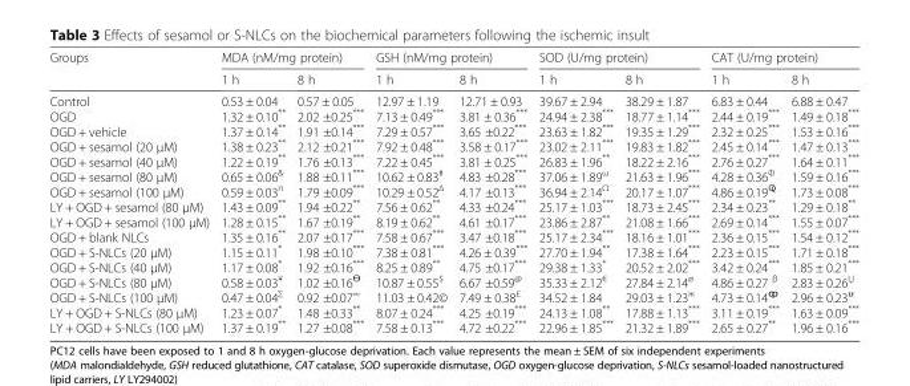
<table><thead><tr><td rowspan="2">Groups</td><td colspan="2">MDA (nM/mg protein)</td><td colspan="2">GSH (nM/mg protein)</td><td colspan="2">SOD (U/mg protein)</td><td colspan="2">CAT (U/mg protein)</td></tr><tr><td>1 h</td><td>8 h</td><td>1 h</td><td>8 h</td><td>1 h</td><td>8 h</td><td>1 h</td><td>8 h</td></tr></thead><tbody><tr><td>Control OGD OGD + vehicle OGD + sesamol (20 μM) OGD + sesamol (40 μM) OGD + sesamol (80 μM) OGD + sesamol (100 μM) LY + OGD + sesamol (80 μM) LY + OGD + sesamol (100 μM) OGD + blank NLCs OGD + S-NLCs (20 μM) OGD + S-NLCs (40 μM) OGD + S-NLCs (80 μM) OGD + S-NLCs (100 μM) LY + OGD + S-NLCs (80 μM) LY + OGD + S-NLCs (100 μM)</td><td>0.53 ± 0.04 1.32 ± 0.10** 1.37 ± 0.14** 1.38 ± 0.23** 1.22 ± 0.19** 0.65 ± 0.06<sup>&amp;</sup> 0.59 ± 0.03<sup>π</sup> 1.43 ± 0.09** 1.28 ± 0.15** 1.35 ± 0.16** 1.15 ± 0.11* 1.17 ± 0.08* 0.58 ± 0.03<sup>¥</sup> 0.47 ± 0.04<sup>∑</sup> 1.23 ± 0.07* 1.37 ± 0.19**</td><td>0.57 ± 0.05 2.02 ±0.25*** 1.91 ±0.14*** 2.12 ±0.21*** 1.76 ±0.13*** 1.88 ±0.11*** 1.79 ±0.09*** 1.94 ±0.22** 1.67 ±0.19** 2.07 ±0.17*** 1.98 ±0.10*** 1.92 ±0.16*** 1.02 ±0.16Ө 0.92 ±0.07∞ 1.48 ±0.33** 1.27 ±0.08***</td><td>12.97 ± 1.19 7.13 ± 0.49*** 7.29 ± 0.57*** 7.92 ± 0.48*** 7.22 ± 0.45*** 10.62 ± 0.83# 10.29 ± 0.52Δ 7.56 ± 0.62** 8.19 ± 0.62** 7.58 ± 0.67*** 7.38 ± 0.81*** 8.25 ± 0.89** 10.87 ± 0.55$ 11.03 ± 0.42© 8.07 ± 0.24*** 7.58 ± 0.13***</td><td>12.71 ± 0.93 3.81 ± 0.36*** 3.65 ±0.22*** 3.58 ± 0.17*** 3.81 ± 0.25*** 4.83 ±0.28*** 4.17 ±0.13*** 4.33 ±0.24*** 4.61 ±0.17*** 3.47 ±0.18*** 4.26 ± 0.39*** 4.75 ±0.17*** 6.67 ±0.59@ 7.49 ± 0.38£ 4.25 ±0.19*** 4.72 ±0.22***</td><td>39.67 ± 2.94 24.94 ± 2.38*** 23.63 ± 1.82*** 23.02 ± 2.11*** 26.83 ± 1.96** 37.06 ± 1.89ω 36.94 ± 2.14Ω 25.17 ± 1.03*** 23.86 ± 2.87** 25.17 ± 2.34*** 27.70 ± 1.94** 29.38 ± 1.33* 35.33 ± 2.12€ 34.52 ± 1.84 24.13 ± 1.08** 22.96 ± 1.85***</td><td>38.29 ± 1.87 18.77 ± 1.14*** 19.35 ± 1.29*** 19.83 ± 1.82*** 18.22 ± 2.16*** 21.63 ± 1.96*** 20.17 ± 1.07*** 18.73 ± 2.45*** 21.08 ± 1.66*** 18.16 ± 1.01*** 17.38 ± 1.64*** 20.52 ± 2.02*** 27.84 ± 2.14ø 29.03 ± 1.23ж 17.88 ± 1.13*** 21.32 ± 1.89***</td><td>6.83 ± 0.44 2.44 ± 0.19*** 2.32 ± 0.25*** 2.45 ± 0.14*** 2.76 ± 0.27*** 4.28 ± 0.36Φ 4.86 ± 0.19Ҩ 2.34 ± 0.23** 2.69 ± 0.14*** 2.36 ± 0.15*** 2.23 ± 0.15*** 3.42 ± 0.24*** 4.86 ± 0.27 β 4.73 ± 0.14ȹ 3.11 ± 0.19*** 2.65 ± 0.27**</td><td>6.88 ± 0.47 1.49 ± 0.18*** 1.53 ± 0.16*** 1.47 ± 0.13*** 1.64 ± 0.11*** 1.59 ± 0.16*** 1.73 ± 0.08*** 1.29 ± 0.18** 1.55 ± 0.07*** 1.54 ± 0.12*** 1.71 ± 0.18*** 1.85 ± 0.21*** 2.83 ± 0.26Џ 2.96 ± 0.23ʉ 1.63 ± 0.09*** 1.96 ± 0.16***</td></tr></tbody></table>